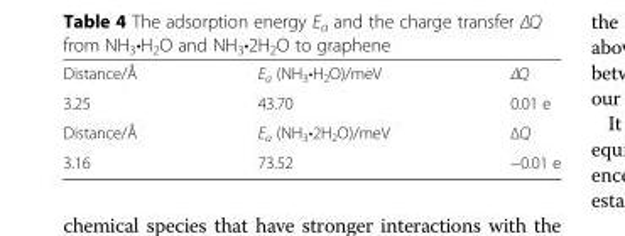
<table><tbody><tr><td>Distance/Å</td><td>E<sub>a</sub> (NH<sub>3</sub>•H<sub>2</sub>O)/meV</td><td>ΔQ</td></tr><tr><td>3.25</td><td>43.70</td><td>0.01 e</td></tr><tr><td>Distance/Å</td><td>E<sub>a</sub> (NH<sub>3</sub>•2H<sub>2</sub>O)/meV</td><td>ΔQ</td></tr><tr><td>3.16</td><td>73.52</td><td>−0.01 e</td></tr></tbody></table>